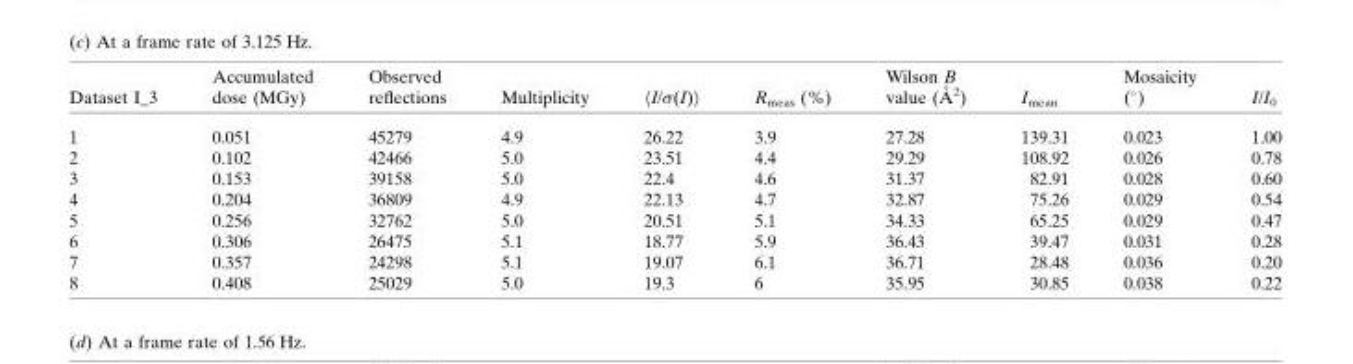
<table><thead><tr><td>Dataset I_3</td><td>Accumulated dose (MGy)</td><td>Observed reflections</td><td>Multiplicity</td><td>〈I/σ(I)〉</td><td>R<sub>meas</sub> (%)</td><td>Wilson B value (A˚ 2)</td><td>I<sub>mean</sub></td><td>Mosaicity (°)</td><td>I/I<sub>0</sub></td></tr></thead><tbody><tr><td>1</td><td>0.051</td><td>45279</td><td>4.9</td><td>26.22</td><td>3.9</td><td>27.28</td><td>139.31</td><td>0.023</td><td>1.00</td></tr><tr><td>2</td><td>0.102</td><td>42466</td><td>5.0</td><td>23.51</td><td>4.4</td><td>29.29</td><td>108.92</td><td>0.026</td><td>0.78</td></tr><tr><td>3</td><td>0.153</td><td>39158</td><td>5.0</td><td>22.4</td><td>4.6</td><td>31.37</td><td>82.91</td><td>0.028</td><td>0.60</td></tr><tr><td>4</td><td>0.204</td><td>36809</td><td>4.9</td><td>22.13</td><td>4.7</td><td>32.87</td><td>75.26</td><td>0.029</td><td>0.54</td></tr><tr><td>5</td><td>0.256</td><td>32762</td><td>5.0</td><td>20.51</td><td>5.1</td><td>34.33</td><td>65.25</td><td>0.029</td><td>0.47</td></tr><tr><td>6</td><td>0.306</td><td>26475</td><td>5.1</td><td>18.77</td><td>5.9</td><td>36.43</td><td>39.47</td><td>0.031</td><td>0.28</td></tr><tr><td>7</td><td>0.357</td><td>24298</td><td>5.1</td><td>19.07</td><td>6.1</td><td>36.71</td><td>28.48</td><td>0.036</td><td>0.20</td></tr><tr><td>8</td><td>0.408</td><td>25029</td><td>5.0</td><td>19.3</td><td>6</td><td>35.95</td><td>30.85</td><td>0.038</td><td>0.22</td></tr></tbody></table>